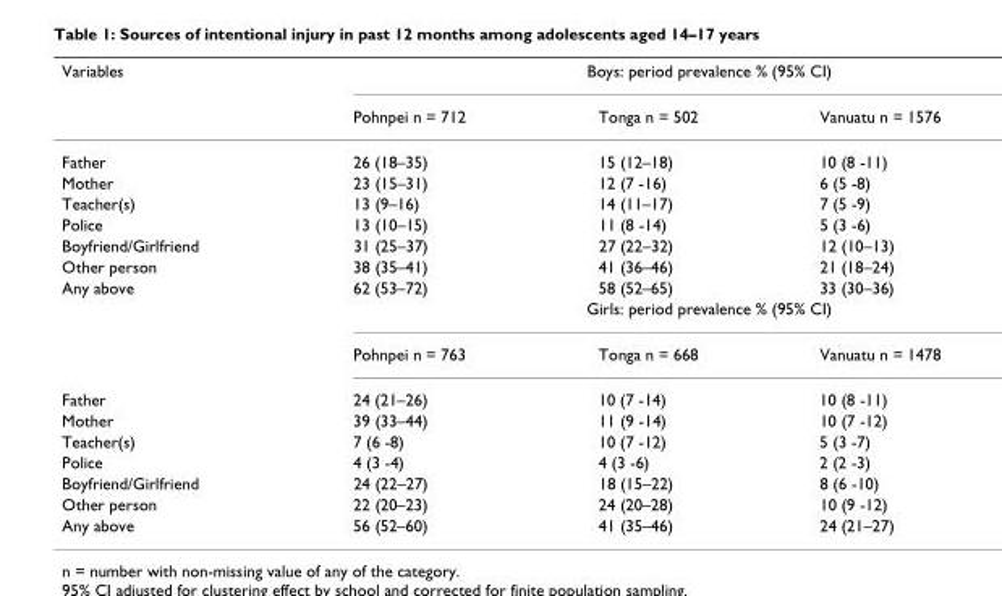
<table><thead><tr><td rowspan="2">Variables</td><td colspan="3">Boys: period prevalence % (95% CI)</td></tr><tr><td>Pohnpei n = 712</td><td>Tonga n = 502</td><td>Vanuatu n = 1576</td></tr></thead><tbody><tr><td>Father</td><td>26 (18–35)</td><td>15 (12–18)</td><td>10 (8 -11)</td></tr><tr><td>Mother</td><td>23 (15–31)</td><td>12 (7 -16)</td><td>6 (5 -8)</td></tr><tr><td>Teacher(s)</td><td>13 (9–16)</td><td>14 (11–17)</td><td>7 (5 -9)</td></tr><tr><td>Police</td><td>13 (10–15)</td><td>11 (8 -14)</td><td>5 (3 -6)</td></tr><tr><td>Boyfriend/Girlfriend</td><td>31 (25–37)</td><td>27 (22–32)</td><td>12 (10–13)</td></tr><tr><td>Other person</td><td>38 (35–41)</td><td>41 (36–46)</td><td>21 (18–24)</td></tr><tr><td rowspan="3">Any above</td><td>62 (53–72)</td><td>58 (52–65)</td><td>33 (30–36)</td></tr><tr><td colspan="3">Girls: period prevalence % (95% CI)</td></tr><tr><td>Pohnpei n = 763</td><td>Tonga n = 668</td><td>Vanuatu n = 1478</td></tr><tr><td>Father</td><td>24 (21–26)</td><td>10 (7 -14)</td><td>10 (8 -11)</td></tr><tr><td>Mother</td><td>39 (33–44)</td><td>11 (9 -14)</td><td>10 (7 -12)</td></tr><tr><td>Teacher(s)</td><td>7 (6 -8)</td><td>10 (7 -12)</td><td>5 (3 -7)</td></tr><tr><td>Police</td><td>4 (3 -4)</td><td>4 (3 -6)</td><td>2 (2 -3)</td></tr><tr><td>Boyfriend/Girlfriend</td><td>24 (22–27)</td><td>18 (15–22)</td><td>8 (6 -10)</td></tr><tr><td>Other person</td><td>22 (20–23)</td><td>24 (20–28)</td><td>10 (9 -12)</td></tr><tr><td>Any above</td><td>56 (52–60)</td><td>41 (35–46)</td><td>24 (21–27)</td></tr></tbody></table>